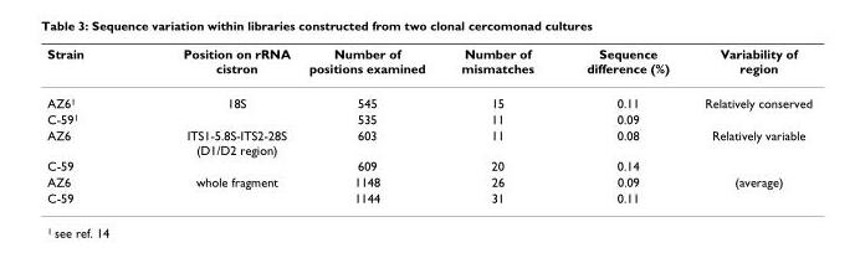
<table><thead><tr><td>Strain</td><td>Position on rRNA cistron</td><td>Number of positions examined</td><td>Number of mismatches</td><td>Sequence difference (%)</td><td>Variability of region</td></tr></thead><tbody><tr><td>AZ6<sup>1</sup></td><td>18S</td><td>545</td><td>15</td><td>0.11</td><td>Relatively conserved</td></tr><tr><td>C-59<sup>1</sup></td><td></td><td>535</td><td>11</td><td>0.09</td><td></td></tr><tr><td>AZ6</td><td>ITS1-5.8S-ITS2-28S (D1/D2 region)</td><td>603</td><td>11</td><td>0.08</td><td>Relatively variable</td></tr><tr><td>C-59</td><td></td><td>609</td><td>20</td><td>0.14</td><td></td></tr><tr><td>AZ6</td><td>whole fragment</td><td>1148</td><td>26</td><td>0.09</td><td>(average)</td></tr><tr><td>C-59</td><td></td><td>1144</td><td>31</td><td>0.11</td><td></td></tr></tbody></table>